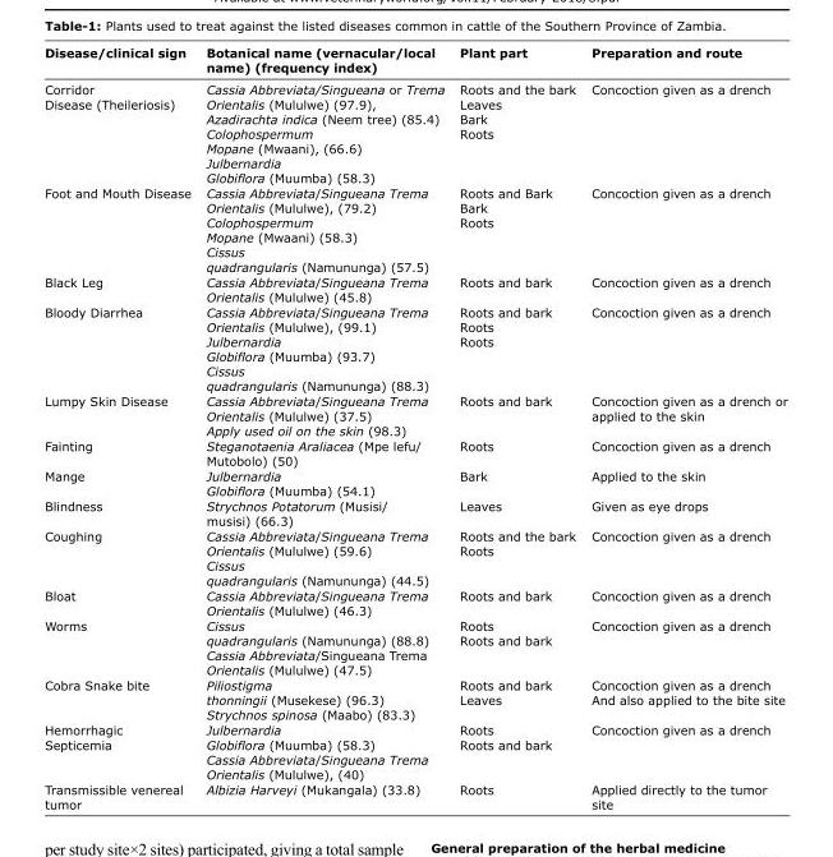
<table><thead><tr><td>Disease/clinical sign</td><td>Botanical name (vernacular/local name) (frequency index)</td><td>Plant part</td><td>Preparation and route</td></tr></thead><tbody><tr><td>Corridor Disease (Theileriosis)</td><td>Cassia Abbreviata/Singueana or Trema Orientalis (Mululwe) (97.9), Azadirachta indica (Neem tree) (85.4) Colophospermum Mopane (Mwaani), (66.6) Julbernardia Globiflora (Muumba) (58.3)</td><td>Roots and the bark Leaves Bark Roots</td><td>Concoction given as a drench</td></tr><tr><td>Foot and Mouth Disease</td><td>Cassia Abbreviata/Singueana Trema Orientalis (Mululwe), (79.2) Colophospermum Mopane (Mwaani) (58.3) Cissus quadrangularis (Namununga) (57.5)</td><td>Roots and Bark Bark Roots</td><td>Concoction given as a drench</td></tr><tr><td>Black Leg</td><td>Cassia Abbreviata/Singueana Trema Orientalis (Mululwe) (45.8)</td><td>Roots and bark</td><td>Concoction given as a drench</td></tr><tr><td>Bloody Diarrhea</td><td>Cassia Abbreviata/Singueana Trema Orientalis (Mululwe), (99.1) Julbernardia Globiflora (Muumba) (93.7) Cissus quadrangularis (Namununga) (88.3)</td><td>Roots and bark Roots Roots</td><td>Concoction given as a drench</td></tr><tr><td>Lumpy Skin Disease</td><td>Cassia Abbreviata/Singueana Trema Orientalis (Mululwe) (37.5) Apply used oil on the skin (98.3)</td><td>Roots and bark</td><td>Concoction given as a drench or applied to the skin</td></tr><tr><td>Fainting</td><td>Steganotaenia Araliacea (Mpe lefu/ Mutobolo) (50)</td><td>Roots</td><td>Concoction given as a drench</td></tr><tr><td>Mange</td><td>Julbernardia Globiflora (Muumba) (54.1)</td><td>Bark</td><td>Applied to the skin</td></tr><tr><td>Blindness</td><td>Strychnos Potatorum (Musisi/ musisi) (66.3)</td><td>Leaves</td><td>Given as eye drops</td></tr><tr><td>Coughing</td><td>Cassia Abbreviata/Singueana Trema Orientalis (Mululwe) (59.6) Cissus quadrangularis (Namununga) (44.5)</td><td>Roots and the bark Roots</td><td>Concoction given as a drench</td></tr><tr><td>Bloat</td><td>Cassia Abbreviata/Singueana Trema Orientalis (Mululwe) (46.3)</td><td>Roots and bark</td><td>Concoction given as a drench</td></tr><tr><td>Worms</td><td>Cissus quadrangularis (Namununga) (88.8) Cassia Abbreviata/Singueana Trema Orientalis (Mululwe) (47.5)</td><td>Roots Roots and bark</td><td>Concoction given as a drench</td></tr><tr><td>Cobra Snake bite</td><td>Piliostigma thonningii (Musekese) (96.3) Strychnos spinosa (Maabo) (83.3)</td><td>Roots and bark Leaves</td><td>Concoction given as a drench And also applied to the bite site</td></tr><tr><td>Hemorrhagic Septicemia</td><td>Julbernardia Globiflora (Muumba) (58.3) Cassia Abbreviata/Singueana Trema Orientalis (Mululwe), (40)</td><td>Roots Roots and bark</td><td>Concoction given as a drench</td></tr><tr><td>Transmissible venereal tumor</td><td>Albizia Harveyi (Mukangala) (33.8)</td><td>Roots</td><td>Applied directly to the tumor site</td></tr></tbody></table>